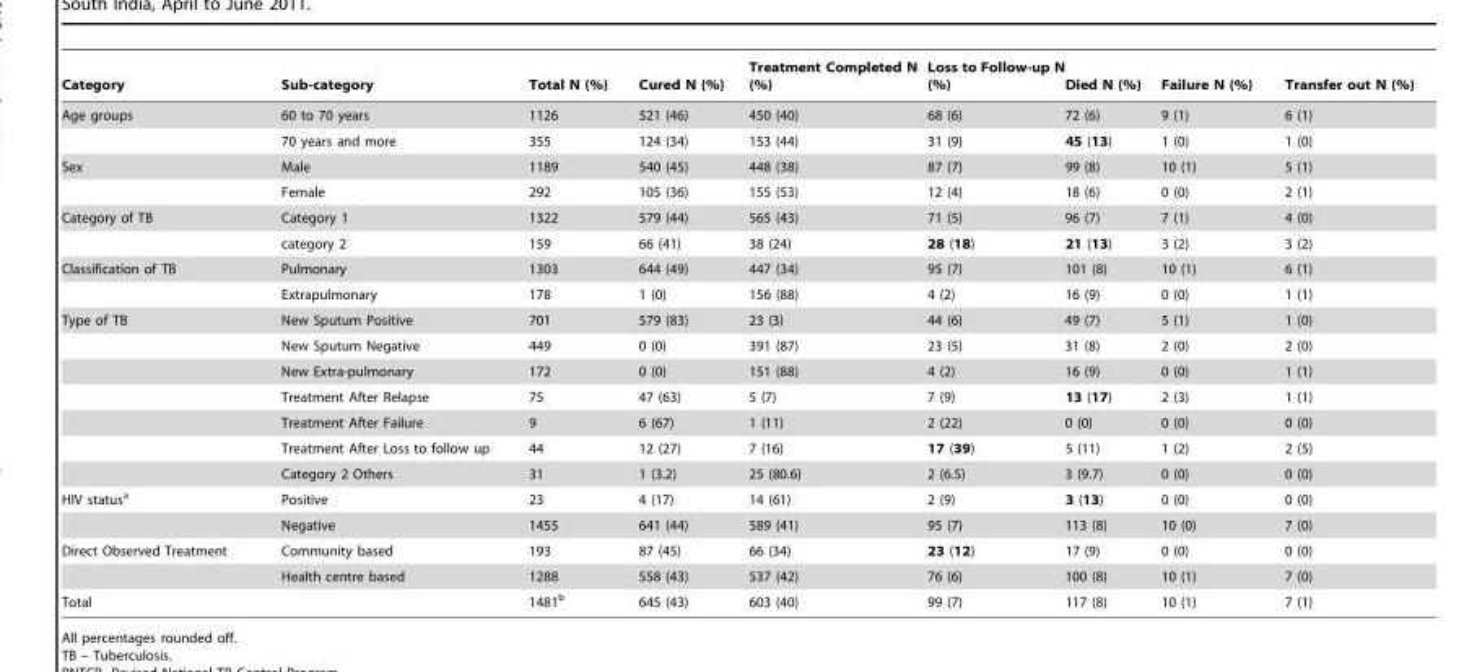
<table><thead><tr><td>Category</td><td>Sub-category</td><td>Total N (%)</td><td>Cured N (%)</td><td>Treatment Completed N (%)</td><td>Loss to Follow-up N (%)</td><td>Died N (%)</td><td>Failure N (%)</td><td>Transfer out N (%)</td></tr></thead><tbody><tr><td rowspan="2">Age groups</td><td>60 to 70 years</td><td>1126</td><td>521 (46)</td><td>450 (40)</td><td>68 (6)</td><td>72 (6)</td><td>9 (1)</td><td>6 (1)</td></tr><tr><td>70 years and more</td><td>355</td><td>124 (34)</td><td>153 (44)</td><td>31 (9)</td><td>45 (13)</td><td>1 (0)</td><td>1 (0)</td></tr><tr><td rowspan="2">Sex</td><td>Male</td><td>1189</td><td>540 (45)</td><td>448 (38)</td><td>87 (7)</td><td>99 (8)</td><td>10 (1)</td><td>5 (1)</td></tr><tr><td>Female</td><td>292</td><td>105 (36)</td><td>155 (53)</td><td>12 (4)</td><td>18 (6)</td><td>0 (0)</td><td>2 (1)</td></tr><tr><td rowspan="2">Category of TB</td><td>Category 1</td><td>1322</td><td>579 (44)</td><td>565 (43)</td><td>71 (5)</td><td>96 (7)</td><td>7 (1)</td><td>4 (0)</td></tr><tr><td>category 2</td><td>159</td><td>66 (41)</td><td>38 (24)</td><td>28 (18)</td><td>21 (13)</td><td>3 (2)</td><td>3 (2)</td></tr><tr><td rowspan="2">Classification of TB</td><td>Pulmonary</td><td>1303</td><td>644 (49)</td><td>447 (34)</td><td>95 (7)</td><td>101 (8)</td><td>10 (1)</td><td>6 (1)</td></tr><tr><td>Extrapulmonary</td><td>178</td><td>1 (0)</td><td>156 (88)</td><td>4 (2)</td><td>16 (9)</td><td>0 (0)</td><td>1 (1)</td></tr><tr><td rowspan="7">Type of TB</td><td>New Sputum Positive</td><td>701</td><td>579 (83)</td><td>23 (3)</td><td>44 (6)</td><td>49 (7)</td><td>5 (1)</td><td>1 (0)</td></tr><tr><td>New Sputum Negative</td><td>449</td><td>0 (0)</td><td>391 (87)</td><td>23 (5)</td><td>31 (8)</td><td>2 (0)</td><td>2 (0)</td></tr><tr><td>New Extra-pulmonary</td><td>172</td><td>0 (0)</td><td>151 (88)</td><td>4 (2)</td><td>16 (9)</td><td>0 (0)</td><td>1 (1)</td></tr><tr><td>Treatment After Relapse</td><td>75</td><td>47 (63)</td><td>5 (7)</td><td>7 (9)</td><td>13 (17)</td><td>2 (3)</td><td>1 (1)</td></tr><tr><td>Treatment After Failure</td><td>9</td><td>6 (67)</td><td>1 (11)</td><td>2 (22)</td><td>0 (0)</td><td>0 (0)</td><td>0 (0)</td></tr><tr><td>Treatment After Loss to follow up</td><td>44</td><td>12 (27)</td><td>7 (16)</td><td>17 (39)</td><td>5 (11)</td><td>1 (2)</td><td>2 (5)</td></tr><tr><td>Category 2 Others</td><td>31</td><td>1 (3.2)</td><td>25 (80.6)</td><td>2 (6.5)</td><td>3 (9.7)</td><td>0 (0)</td><td>0 (0)</td></tr><tr><td rowspan="2">HIV status<sup>a</sup></td><td>Positive</td><td>23</td><td>4 (17)</td><td>14 (61)</td><td>2 (9)</td><td>3 (13)</td><td>0 (0)</td><td>0 (0)</td></tr><tr><td>Negative</td><td>1455</td><td>641 (44)</td><td>589 (41)</td><td>95 (7)</td><td>113 (8)</td><td>10 (0)</td><td>7 (0)</td></tr><tr><td rowspan="2">Direct Observed Treatment</td><td>Community based</td><td>193</td><td>87 (45)</td><td>66 (34)</td><td>23 (12)</td><td>17 (9)</td><td>0 (0)</td><td>0 (0)</td></tr><tr><td>Health centre based</td><td>1288</td><td>558 (43)</td><td>537 (42)</td><td>76 (6)</td><td>100 (8)</td><td>10 (1)</td><td>7 (0)</td></tr><tr><td>Total</td><td></td><td>1481<sup>b</sup></td><td>645 (43)</td><td>603 (40)</td><td>99 (7)</td><td>117 (8)</td><td>10 (1)</td><td>7 (1)</td></tr></tbody></table>